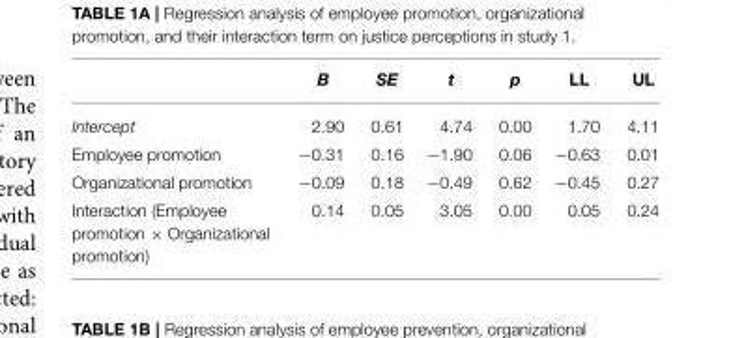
<table><thead><tr><td></td><td>B</td><td>SE</td><td>t</td><td>p</td><td>LL</td><td>UL</td></tr></thead><tbody><tr><td>Intercept</td><td>2.90</td><td>0.61</td><td>4.74</td><td>0.00</td><td>1.70</td><td>4.11</td></tr><tr><td>Employee promotion</td><td>−0.31</td><td>0.16</td><td>−1.90</td><td>0.06</td><td>−0.63</td><td>0.01</td></tr><tr><td>Organizational promotion</td><td>−0.09</td><td>0.18</td><td>−0.49</td><td>0.62</td><td>−0.45</td><td>0.27</td></tr><tr><td>Interaction (Employee promotion × Organizational promotion)</td><td>0.14</td><td>0.05</td><td>3.05</td><td>0.00</td><td>0.05</td><td>0.24</td></tr></tbody></table>